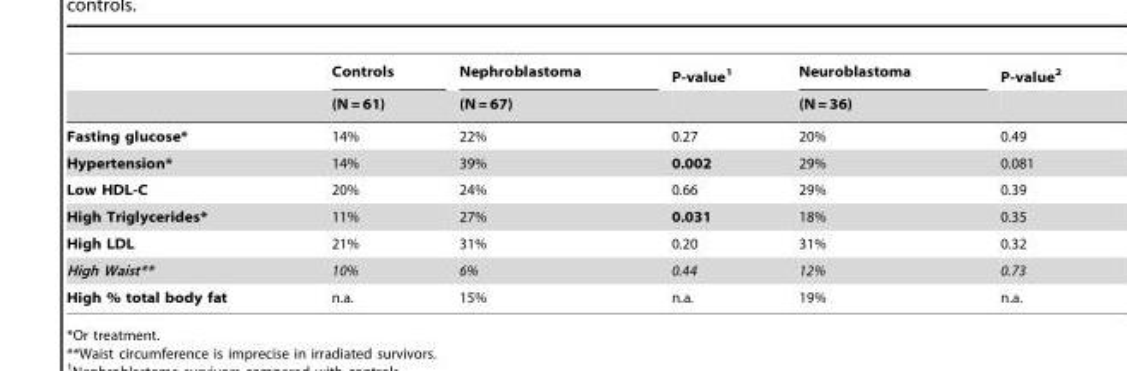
<table><thead><tr><td rowspan="2"></td><td rowspan="2">Controls (N = 61)</td><td rowspan="2">Nephroblastoma (N = 67)</td><td rowspan="2">P-value<sup>1</sup></td><td rowspan="2">Neuroblastoma (N = 36)</td><td rowspan="2">P-value<sup>2</sup></td></tr><tr></tr></thead><tbody><tr><td>Fasting glucose*</td><td>14%</td><td>22%</td><td>0.27</td><td>20%</td><td>0.49</td></tr><tr><td>Hypertension*</td><td>14%</td><td>39%</td><td>0.002</td><td>29%</td><td>0.081</td></tr><tr><td>Low HDL-C</td><td>20%</td><td>24%</td><td>0.66</td><td>29%</td><td>0.39</td></tr><tr><td>High Triglycerides*</td><td>11%</td><td>27%</td><td>0.031</td><td>18%</td><td>0.35</td></tr><tr><td>High LDL</td><td>21%</td><td>31%</td><td>0.20</td><td>31%</td><td>0.32</td></tr><tr><td>High Waist**</td><td>10%</td><td>6%</td><td>0.44</td><td>12%</td><td>0.73</td></tr><tr><td>High % total body fat</td><td>n.a.</td><td>15%</td><td>n.a.</td><td>19%</td><td>n.a.</td></tr></tbody></table>